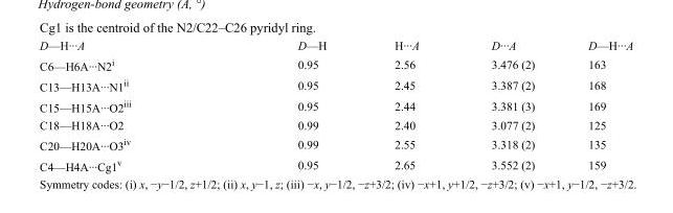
<table><tbody><tr><td>D—H···A</td><td>D—H</td><td>H···A</td><td>D···A</td><td>D—H···A</td></tr><tr><td>C6—H6A···N2<sup>i</sup></td><td>0.95</td><td>2.56</td><td>3.476 (2)</td><td>163</td></tr><tr><td>C13—H13A···N1<sup>ii</sup></td><td>0.95</td><td>2.45</td><td>3.387 (2)</td><td>168</td></tr><tr><td>C15—H15A···O2<sup>iii</sup></td><td>0.95</td><td>2.44</td><td>3.381 (3)</td><td>169</td></tr><tr><td>C18—H18A···O2</td><td>0.99</td><td>2.40</td><td>3.077 (2)</td><td>125</td></tr><tr><td>C20—H20A···O3<sup>iv</sup></td><td>0.99</td><td>2.55</td><td>3.318 (2)</td><td>135</td></tr><tr><td>C4—H4A···Cg1<sup>v</sup></td><td>0.95</td><td>2.65</td><td>3.552 (2)</td><td>159</td></tr></tbody></table>